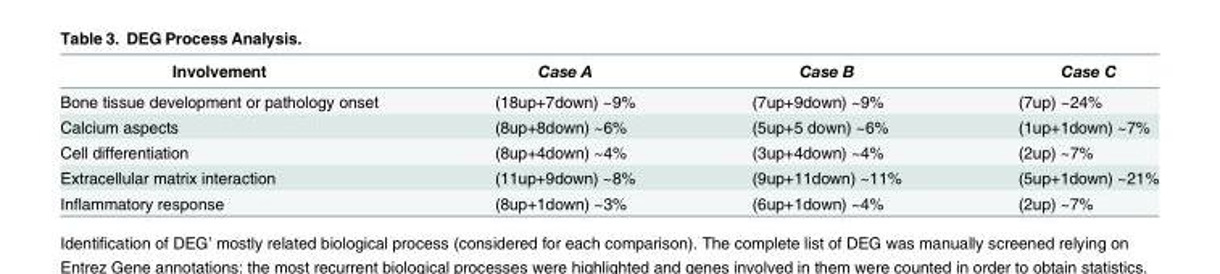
<table><thead><tr><td>Involvement</td><td>Case A</td><td>Case B</td><td>Case C</td></tr></thead><tbody><tr><td>Bone tissue development or pathology onset</td><td>(18up+7down) ~9%</td><td>(7up+9down) ~9%</td><td>(7up) ~24%</td></tr><tr><td>Calcium aspects</td><td>(8up+8down) ~6%</td><td>(5up+5 down) ~6%</td><td>(1up+1down) ~7%</td></tr><tr><td>Cell differentiation</td><td>(8up+4down) ~4%</td><td>(3up+4down) ~4%</td><td>(2up) ~7%</td></tr><tr><td>Extracellular matrix interaction</td><td>(11up+9down) ~8%</td><td>(9up+11down) ~11%</td><td>(5up+1down) ~21%</td></tr><tr><td>Inflammatory response</td><td>(8up+1down) ~3%</td><td>(6up+1down) ~4%</td><td>(2up) ~7%</td></tr></tbody></table>